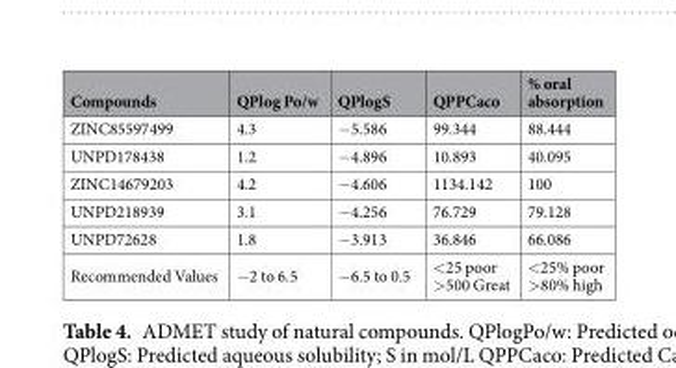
<table><thead><tr><td>Compounds</td><td>QPlog Po/w</td><td>QPlogS</td><td>QPPCaco</td><td>% oral absorption</td></tr></thead><tbody><tr><td>ZINC85597499</td><td>4.3</td><td>−5.586</td><td>99.344</td><td>88.444</td></tr><tr><td>UNPD178438</td><td>1.2</td><td>−4.896</td><td>10.893</td><td>40.095</td></tr><tr><td>ZINC14679203</td><td>4.2</td><td>−4.606</td><td>1134.142</td><td>100</td></tr><tr><td>UNPD218939</td><td>3.1</td><td>−4.256</td><td>76.729</td><td>79.128</td></tr><tr><td>UNPD72628</td><td>1.8</td><td>−3.913</td><td>36.846</td><td>66.086</td></tr><tr><td>Recommended Values</td><td>−2 to 6.5</td><td>−6.5 to 0.5</td><td>&lt;25 poor &gt;500 Great</td><td>&lt;25% poor &gt;80% high</td></tr></tbody></table>